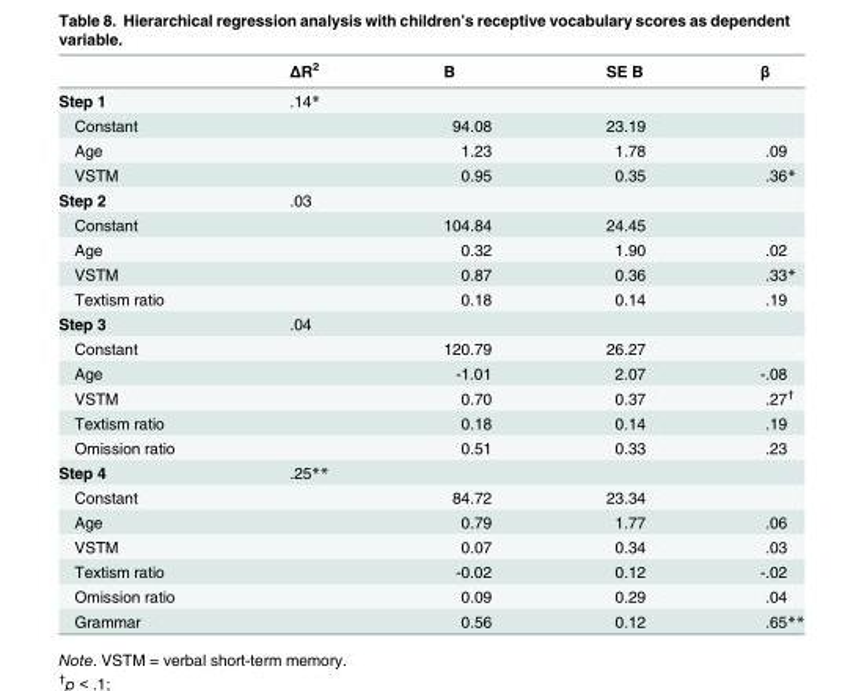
<table><thead><tr><td></td><td>ΔR<sup>2</sup></td><td>B</td><td>SE B</td><td>β</td></tr></thead><tbody><tr><td>Step 1</td><td>.14*</td><td></td><td></td><td></td></tr><tr><td>Constant</td><td></td><td>94.08</td><td>23.19</td><td></td></tr><tr><td>Age</td><td></td><td>1.23</td><td>1.78</td><td>.09</td></tr><tr><td>VSTM</td><td></td><td>0.95</td><td>0.35</td><td>.36*</td></tr><tr><td>Step 2</td><td>.03</td><td></td><td></td><td></td></tr><tr><td>Constant</td><td></td><td>104.84</td><td>24.45</td><td></td></tr><tr><td>Age</td><td></td><td>0.32</td><td>1.90</td><td>.02</td></tr><tr><td>VSTM</td><td></td><td>0.87</td><td>0.36</td><td>.33*</td></tr><tr><td>Textism ratio</td><td></td><td>0.18</td><td>0.14</td><td>.19</td></tr><tr><td>Step 3</td><td>.04</td><td></td><td></td><td></td></tr><tr><td>Constant</td><td></td><td>120.79</td><td>26.27</td><td></td></tr><tr><td>Age</td><td></td><td>-1.01</td><td>2.07</td><td>-.08</td></tr><tr><td>VSTM</td><td></td><td>0.70</td><td>0.37</td><td>.27<sup>†</sup></td></tr><tr><td>Textism ratio</td><td></td><td>0.18</td><td>0.14</td><td>.19</td></tr><tr><td>Omission ratio</td><td></td><td>0.51</td><td>0.33</td><td>.23</td></tr><tr><td>Step 4</td><td>.25**</td><td></td><td></td><td></td></tr><tr><td>Constant</td><td></td><td>84.72</td><td>23.34</td><td></td></tr><tr><td>Age</td><td></td><td>0.79</td><td>1.77</td><td>.06</td></tr><tr><td>VSTM</td><td></td><td>0.07</td><td>0.34</td><td>.03</td></tr><tr><td>Textism ratio</td><td></td><td>-0.02</td><td>0.12</td><td>-.02</td></tr><tr><td>Omission ratio</td><td></td><td>0.09</td><td>0.29</td><td>.04</td></tr><tr><td>Grammar</td><td></td><td>0.56</td><td>0.12</td><td>.65**</td></tr></tbody></table>